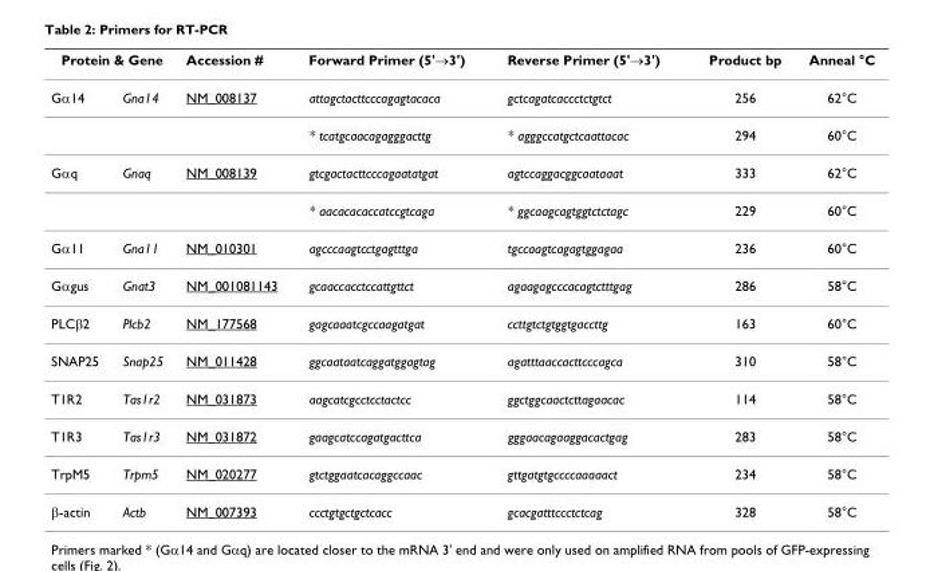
<table><thead><tr><td colspan="2">Protein &amp; Gene</td><td rowspan="2">Accession # NM_008137</td><td rowspan="2">Forward Primer (5&#x27;→3&#x27;) attagctacttcccagagtacaca</td><td rowspan="2">Reverse Primer (5&#x27;→3&#x27;) gctcagatcaccctctgtct</td><td rowspan="2">Product bp 256</td><td rowspan="2">Anneal °C 62°C</td></tr><tr><td>Gα14</td><td>Gna14</td></tr></thead><tbody><tr><td></td><td></td><td></td><td>* tcatgcaacagagggacttg</td><td>* agggccatgctcaattacac</td><td>294</td><td>60°C</td></tr><tr><td rowspan="2">Gαq</td><td>Gnaq</td><td>NM_008139</td><td>gtcgactacttcccagaatatgat</td><td>agtccaggacggcaataaat</td><td>333</td><td>62°C</td></tr><tr><td></td><td></td><td>* aacacacaccatccgtcaga</td><td>* ggcaagcagtggtctctagc</td><td>229</td><td>60°C</td></tr><tr><td>Gα11</td><td>Gna11</td><td>NM_010301</td><td>agcccaagtcctgagtttga</td><td>tgccaagtcagagtggagaa</td><td>236</td><td>60°C</td></tr><tr><td>Gαgus</td><td>Gnat3</td><td>NM_001081143</td><td>gcaaccacctccattgttct</td><td>agaagagcccacagtctttgag</td><td>286</td><td>58°C</td></tr><tr><td>PLCβ2</td><td>Plcb2</td><td>NM_177568</td><td>gagcaaatcgccaagatgat</td><td>ccttgtctgtggtgaccttg</td><td>163</td><td>60°C</td></tr><tr><td>SNAP25</td><td>Snap25</td><td>NM_011428</td><td>ggcaataatcaggatggagtag</td><td>agatttaaccacttcccagca</td><td>310</td><td>58°C</td></tr><tr><td>T1R2</td><td>Tas1r2</td><td>NM_031873</td><td>aagcatcgcctcctactcc</td><td>ggctggcaactcttagaacac</td><td>114</td><td>58°C</td></tr><tr><td>T1R3</td><td>Tas1r3</td><td>NM_031872</td><td>gaagcatccagatgacttca</td><td>gggaacagaaggacactgag</td><td>283</td><td>58°C</td></tr><tr><td>TrpM5</td><td>Trpm5</td><td>NM_020277</td><td>gtctggaatcacaggccaac</td><td>gttgatgtgccccaaaaact</td><td>234</td><td>58°C</td></tr><tr><td>β-actin</td><td>Actb</td><td>NM_007393</td><td>ccctgtgctgctcacc</td><td>gcacgatttccctctcag</td><td>328</td><td>58°C</td></tr></tbody></table>